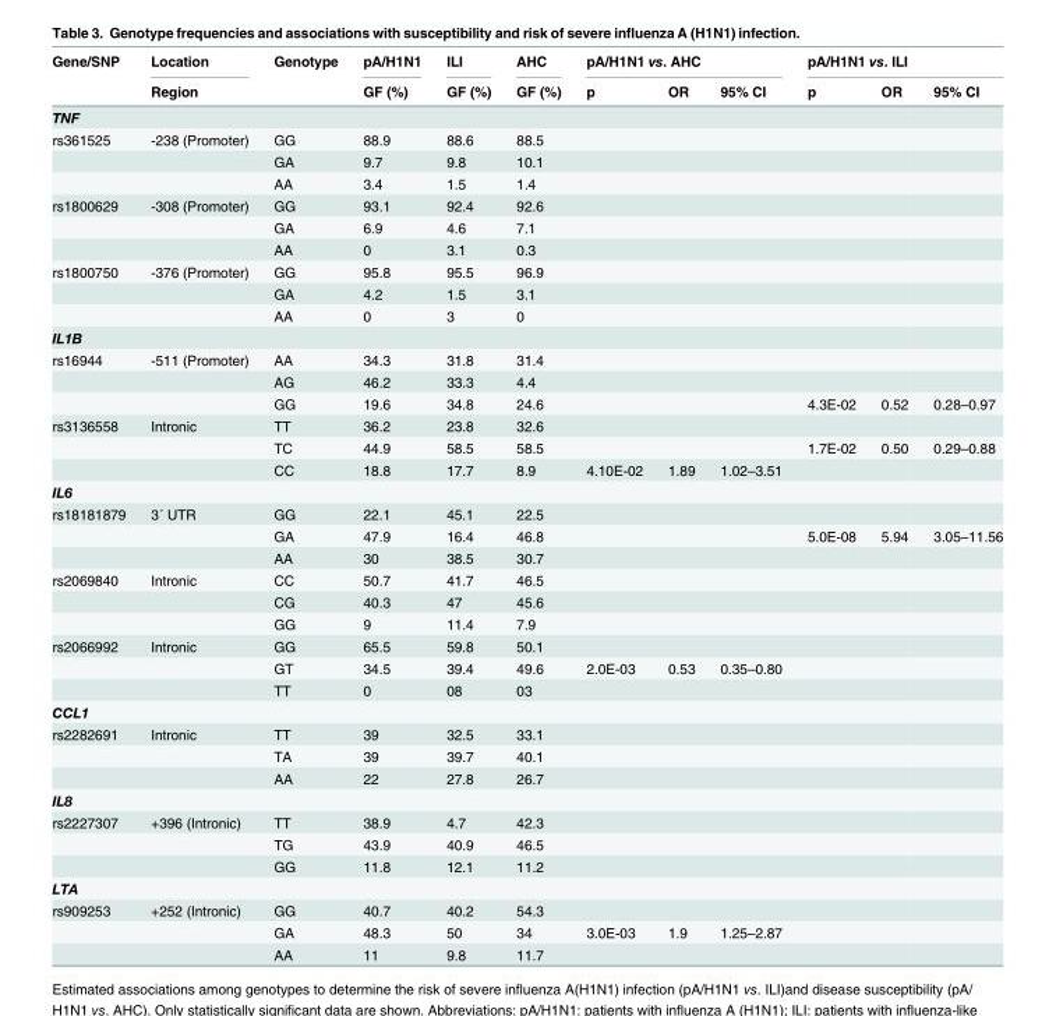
<table><thead><tr><td rowspan="2">Gene/SNP</td><td rowspan="2">Location Region</td><td rowspan="2">Genotype</td><td rowspan="2">pA/H1N1 GF (%)</td><td rowspan="2">ILI GF (%)</td><td rowspan="2">AHC GF (%)</td><td colspan="3">pA/H1N1 vs. AHC</td><td colspan="3">pA/H1N1 vs. ILI</td></tr><tr><td>p</td><td>OR</td><td>95% CI</td><td>p</td><td>OR</td><td>95% CI</td></tr></thead><tbody><tr><td colspan="12">TNF</td></tr><tr><td rowspan="3">rs361525</td><td>-238 (Promoter)</td><td>GG</td><td>88.9</td><td>88.6</td><td>88.5</td><td></td><td></td><td></td><td></td><td></td><td></td></tr><tr><td></td><td>GA</td><td>9.7</td><td>9.8</td><td>10.1</td><td></td><td></td><td></td><td></td><td></td><td></td></tr><tr><td></td><td>AA</td><td>3.4</td><td>1.5</td><td>1.4</td><td></td><td></td><td></td><td></td><td></td><td></td></tr><tr><td rowspan="3">rs1800629</td><td>-308 (Promoter)</td><td>GG</td><td>93.1</td><td>92.4</td><td>92.6</td><td></td><td></td><td></td><td></td><td></td><td></td></tr><tr><td></td><td>GA</td><td>6.9</td><td>4.6</td><td>7.1</td><td></td><td></td><td></td><td></td><td></td><td></td></tr><tr><td></td><td>AA</td><td>0</td><td>3.1</td><td>0.3</td><td></td><td></td><td></td><td></td><td></td><td></td></tr><tr><td rowspan="3">rs1800750</td><td>-376 (Promoter)</td><td>GG</td><td>95.8</td><td>95.5</td><td>96.9</td><td></td><td></td><td></td><td></td><td></td><td></td></tr><tr><td></td><td>GA</td><td>4.2</td><td>1.5</td><td>3.1</td><td></td><td></td><td></td><td></td><td></td><td></td></tr><tr><td></td><td>AA</td><td>0</td><td>3</td><td>0</td><td></td><td></td><td></td><td></td><td></td><td></td></tr><tr><td colspan="12">IL1B</td></tr><tr><td rowspan="3">rs16944</td><td>-511 (Promoter)</td><td>AA</td><td>34.3</td><td>31.8</td><td>31.4</td><td></td><td></td><td></td><td></td><td></td><td></td></tr><tr><td></td><td>AG</td><td>46.2</td><td>33.3</td><td>4.4</td><td></td><td></td><td></td><td></td><td></td><td></td></tr><tr><td></td><td>GG</td><td>19.6</td><td>34.8</td><td>24.6</td><td></td><td></td><td></td><td>4.3E-02</td><td>0.52</td><td>0.28–0.97</td></tr><tr><td rowspan="3">rs3136558</td><td>Intronic</td><td>TT</td><td>36.2</td><td>23.8</td><td>32.6</td><td></td><td></td><td></td><td></td><td></td><td></td></tr><tr><td></td><td>TC</td><td>44.9</td><td>58.5</td><td>58.5</td><td></td><td></td><td></td><td>1.7E-02</td><td>0.50</td><td>0.29–0.88</td></tr><tr><td></td><td>CC</td><td>18.8</td><td>17.7</td><td>8.9</td><td>4.10E-02</td><td>1.89</td><td>1.02–3.51</td><td></td><td></td><td></td></tr><tr><td colspan="12">IL6</td></tr><tr><td rowspan="3">rs18181879</td><td>3´ UTR</td><td>GG</td><td>22.1</td><td>45.1</td><td>22.5</td><td></td><td></td><td></td><td></td><td></td><td></td></tr><tr><td></td><td>GA</td><td>47.9</td><td>16.4</td><td>46.8</td><td></td><td></td><td></td><td>5.0E-08</td><td>5.94</td><td>3.05–11.56</td></tr><tr><td></td><td>AA</td><td>30</td><td>38.5</td><td>30.7</td><td></td><td></td><td></td><td></td><td></td><td></td></tr><tr><td rowspan="3">rs2069840</td><td>Intronic</td><td>CC</td><td>50.7</td><td>41.7</td><td>46.5</td><td></td><td></td><td></td><td></td><td></td><td></td></tr><tr><td></td><td>CG</td><td>40.3</td><td>47</td><td>45.6</td><td></td><td></td><td></td><td></td><td></td><td></td></tr><tr><td></td><td>GG</td><td>9</td><td>11.4</td><td>7.9</td><td></td><td></td><td></td><td></td><td></td><td></td></tr><tr><td rowspan="3">rs2066992</td><td>Intronic</td><td>GG</td><td>65.5</td><td>59.8</td><td>50.1</td><td></td><td></td><td></td><td></td><td></td><td></td></tr><tr><td></td><td>GT</td><td>34.5</td><td>39.4</td><td>49.6</td><td>2.0E-03</td><td>0.53</td><td>0.35–0.80</td><td></td><td></td><td></td></tr><tr><td></td><td>TT</td><td>0</td><td>08</td><td>03</td><td></td><td></td><td></td><td></td><td></td><td></td></tr><tr><td colspan="12">CCL1</td></tr><tr><td rowspan="3">rs2282691</td><td>Intronic</td><td>TT</td><td>39</td><td>32.5</td><td>33.1</td><td></td><td></td><td></td><td></td><td></td><td></td></tr><tr><td></td><td>TA</td><td>39</td><td>39.7</td><td>40.1</td><td></td><td></td><td></td><td></td><td></td><td></td></tr><tr><td></td><td>AA</td><td>22</td><td>27.8</td><td>26.7</td><td></td><td></td><td></td><td></td><td></td><td></td></tr><tr><td colspan="12">IL8</td></tr><tr><td rowspan="3">rs2227307</td><td>+396 (Intronic)</td><td>TT</td><td>38.9</td><td>4.7</td><td>42.3</td><td></td><td></td><td></td><td></td><td></td><td></td></tr><tr><td></td><td>TG</td><td>43.9</td><td>40.9</td><td>46.5</td><td></td><td></td><td></td><td></td><td></td><td></td></tr><tr><td></td><td>GG</td><td>11.8</td><td>12.1</td><td>11.2</td><td></td><td></td><td></td><td></td><td></td><td></td></tr><tr><td colspan="12">LTA</td></tr><tr><td rowspan="3">rs909253</td><td>+252 (Intronic)</td><td>GG</td><td>40.7</td><td>40.2</td><td>54.3</td><td></td><td></td><td></td><td></td><td></td><td></td></tr><tr><td></td><td>GA</td><td>48.3</td><td>50</td><td>34</td><td>3.0E-03</td><td>1.9</td><td>1.25–2.87</td><td></td><td></td><td></td></tr><tr><td></td><td>AA</td><td>11</td><td>9.8</td><td>11.7</td><td></td><td></td><td></td><td></td><td></td><td></td></tr></tbody></table>